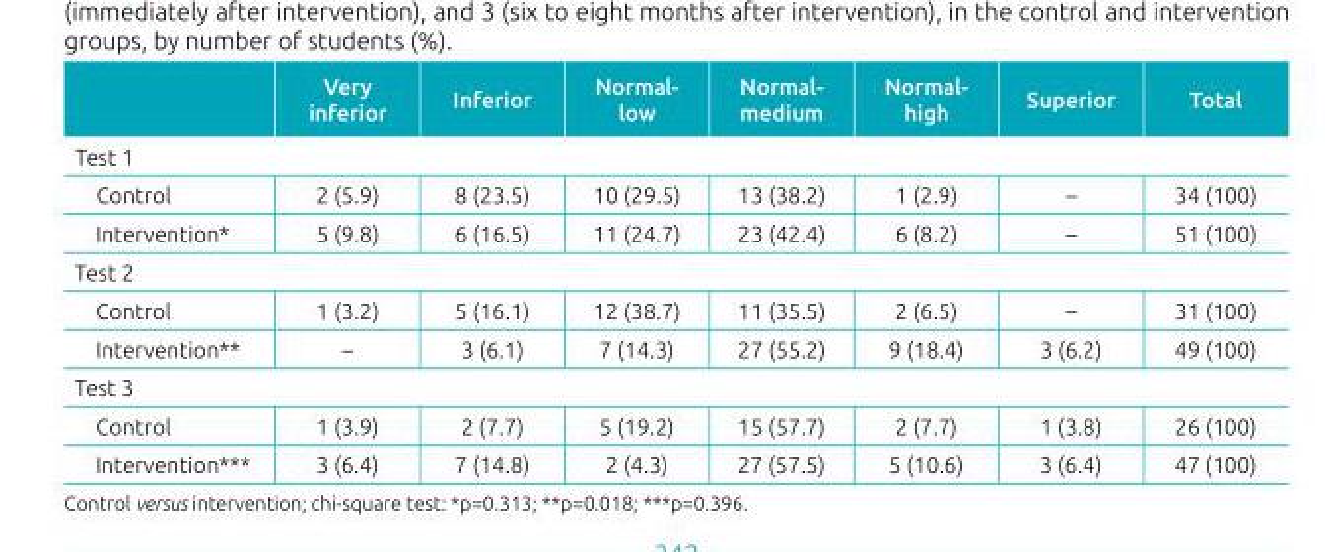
<table><thead><tr><td></td><td>Very inferior</td><td>Inferior</td><td>Normal‑ low</td><td>Normal‑ medium</td><td>Normal‑ high</td><td>Superior</td><td>Total</td></tr></thead><tbody><tr><td colspan="8">Test 1</td></tr><tr><td>Control</td><td>2 (5.9)</td><td>8 (23.5)</td><td>10 (29.5)</td><td>13 (38.2)</td><td>1 (2.9)</td><td>–</td><td>34 (100)</td></tr><tr><td>Intervention*</td><td>5 (9.8)</td><td>6 (16.5)</td><td>11 (24.7)</td><td>23 (42.4)</td><td>6 (8.2)</td><td>–</td><td>51 (100)</td></tr><tr><td colspan="8">Test 2</td></tr><tr><td>Control</td><td>1 (3.2)</td><td>5 (16.1)</td><td>12 (38.7)</td><td>11 (35.5)</td><td>2 (6.5)</td><td>–</td><td>31 (100)</td></tr><tr><td>Intervention**</td><td>–</td><td>3 (6.1)</td><td>7 (14.3)</td><td>27 (55.2)</td><td>9 (18.4)</td><td>3 (6.2)</td><td>49 (100)</td></tr><tr><td colspan="8">Test 3</td></tr><tr><td>Control</td><td>1 (3.9)</td><td>2 (7.7)</td><td>5 (19.2)</td><td>15 (57.7)</td><td>2 (7.7)</td><td>1 (3.8)</td><td>26 (100)</td></tr><tr><td>Intervention***</td><td>3 (6.4)</td><td>7 (14.8)</td><td>2 (4.3)</td><td>27 (57.5)</td><td>5 (10.6)</td><td>3 (6.4)</td><td>47 (100)</td></tr></tbody></table>